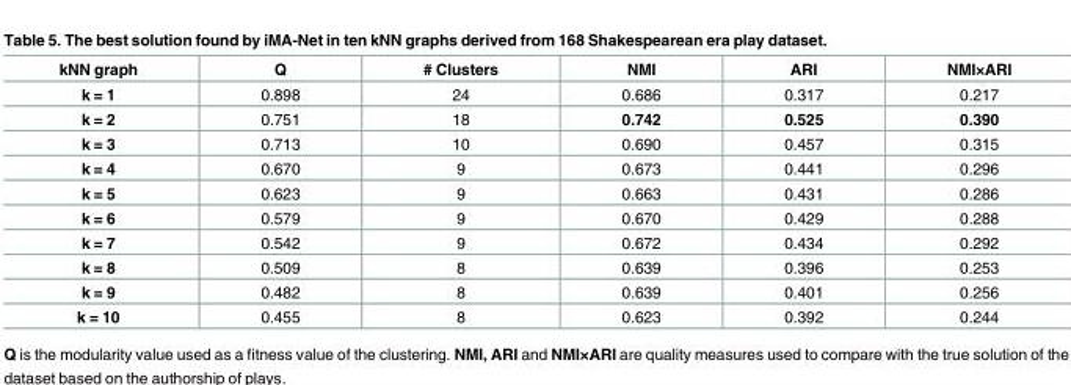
<table><thead><tr><td>kNN graph</td><td>Q</td><td># Clusters</td><td>NMI</td><td>ARI</td><td>NMI×ARI</td></tr></thead><tbody><tr><td>k = 1</td><td>0.898</td><td>24</td><td>0.686</td><td>0.317</td><td>0.217</td></tr><tr><td>k = 2</td><td>0.751</td><td>18</td><td>0.742</td><td>0.525</td><td>0.390</td></tr><tr><td>k = 3</td><td>0.713</td><td>10</td><td>0.690</td><td>0.457</td><td>0.315</td></tr><tr><td>k = 4</td><td>0.670</td><td>9</td><td>0.673</td><td>0.441</td><td>0.296</td></tr><tr><td>k = 5</td><td>0.623</td><td>9</td><td>0.663</td><td>0.431</td><td>0.286</td></tr><tr><td>k = 6</td><td>0.579</td><td>9</td><td>0.670</td><td>0.429</td><td>0.288</td></tr><tr><td>k = 7</td><td>0.542</td><td>9</td><td>0.672</td><td>0.434</td><td>0.292</td></tr><tr><td>k = 8</td><td>0.509</td><td>8</td><td>0.639</td><td>0.396</td><td>0.253</td></tr><tr><td>k = 9</td><td>0.482</td><td>8</td><td>0.639</td><td>0.401</td><td>0.256</td></tr><tr><td>k = 10</td><td>0.455</td><td>8</td><td>0.623</td><td>0.392</td><td>0.244</td></tr></tbody></table>